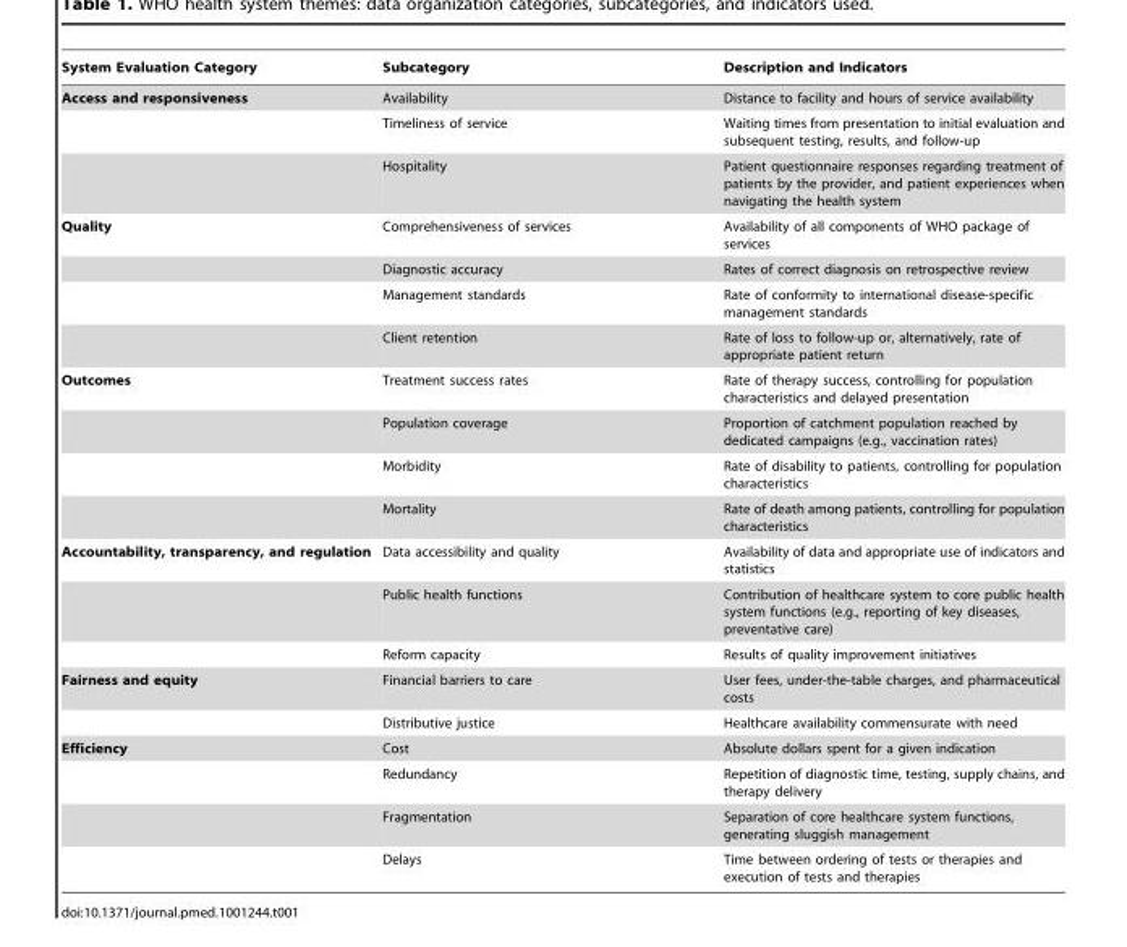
<table><thead><tr><td>System Evaluation Category</td><td>Subcategory</td><td>Description and Indicators</td></tr></thead><tbody><tr><td rowspan="3">Access and responsiveness</td><td>Availability</td><td>Distance to facility and hours of service availability</td></tr><tr><td>Timeliness of service</td><td>Waiting times from presentation to initial evaluation and subsequent testing, results, and follow-up</td></tr><tr><td>Hospitality</td><td>Patient questionnaire responses regarding treatment of patients by the provider, and patient experiences when navigating the health system</td></tr><tr><td rowspan="4">Quality</td><td>Comprehensiveness of services</td><td>Availability of all components of WHO package of services</td></tr><tr><td>Diagnostic accuracy</td><td>Rates of correct diagnosis on retrospective review</td></tr><tr><td>Management standards</td><td>Rate of conformity to international disease-specific management standards</td></tr><tr><td>Client retention</td><td>Rate of loss to follow-up or, alternatively, rate of appropriate patient return</td></tr><tr><td rowspan="4">Outcomes</td><td>Treatment success rates</td><td>Rate of therapy success, controlling for population characteristics and delayed presentation</td></tr><tr><td>Population coverage</td><td>Proportion of catchment population reached by dedicated campaigns (e.g., vaccination rates)</td></tr><tr><td>Morbidity</td><td>Rate of disability to patients, controlling for population characteristics</td></tr><tr><td>Mortality</td><td>Rate of death among patients, controlling for population characteristics</td></tr><tr><td rowspan="3">Accountability, transparency, and regulation</td><td>Data accessibility and quality</td><td>Availability of data and appropriate use of indicators and statistics</td></tr><tr><td>Public health functions</td><td>Contribution of healthcare system to core public health system functions (e.g., reporting of key diseases, preventative care)</td></tr><tr><td>Reform capacity</td><td>Results of quality improvement initiatives</td></tr><tr><td rowspan="2">Fairness and equity</td><td>Financial barriers to care</td><td>User fees, under-the-table charges, and pharmaceutical costs</td></tr><tr><td>Distributive justice</td><td>Healthcare availability commensurate with need</td></tr><tr><td rowspan="4">Efficiency</td><td>Cost</td><td>Absolute dollars spent for a given indication</td></tr><tr><td>Redundancy</td><td>Repetition of diagnostic time, testing, supply chains, and therapy delivery</td></tr><tr><td>Fragmentation</td><td>Separation of core healthcare system functions, generating sluggish management</td></tr><tr><td>Delays</td><td>Time between ordering of tests or therapies and execution of tests and therapies</td></tr></tbody></table>